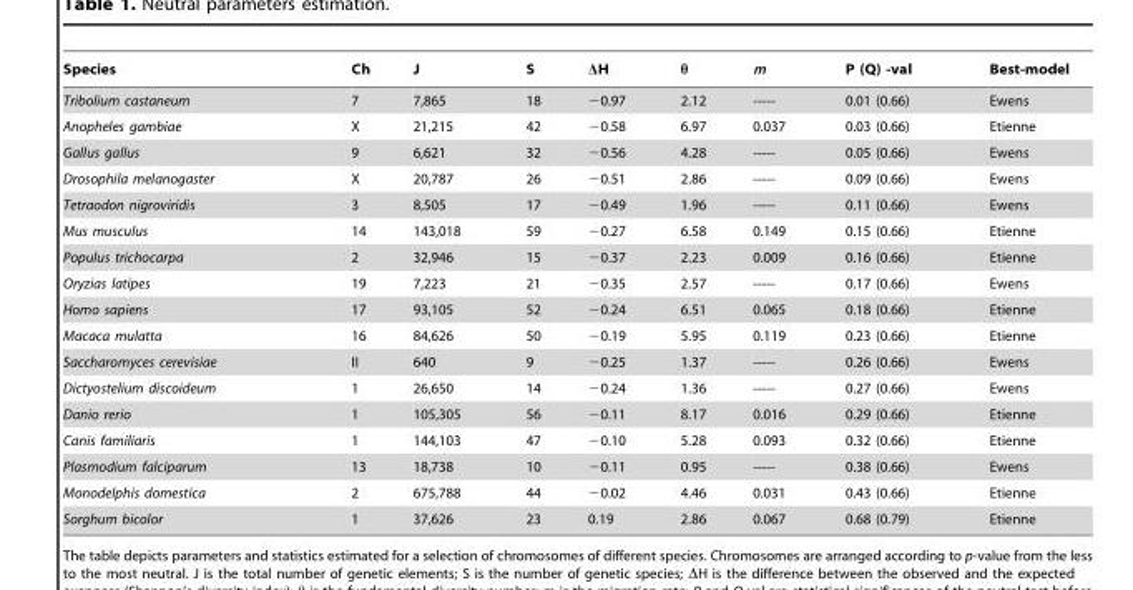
<table><thead><tr><td>Species</td><td>Ch</td><td>J</td><td>S</td><td>ΔH</td><td>θ</td><td>m</td><td>P (Q) -val</td><td>Best-model</td></tr></thead><tbody><tr><td>Tribolium castaneum</td><td>7</td><td>7,865</td><td>18</td><td>−0.97</td><td>2.12</td><td>-----</td><td>0.01 (0.66)</td><td>Ewens</td></tr><tr><td>Anopheles gambiae</td><td>X</td><td>21,215</td><td>42</td><td>−0.58</td><td>6.97</td><td>0.037</td><td>0.03 (0.66)</td><td>Etienne</td></tr><tr><td>Gallus gallus</td><td>9</td><td>6,621</td><td>32</td><td>−0.56</td><td>4.28</td><td>-----</td><td>0.05 (0.66)</td><td>Ewens</td></tr><tr><td>Drosophila melanogaster</td><td>X</td><td>20,787</td><td>26</td><td>−0.51</td><td>2.86</td><td>-----</td><td>0.09 (0.66)</td><td>Ewens</td></tr><tr><td>Tetraodon nigroviridis</td><td>3</td><td>8,505</td><td>17</td><td>−0.49</td><td>1.96</td><td>-----</td><td>0.11 (0.66)</td><td>Ewens</td></tr><tr><td>Mus musculus</td><td>14</td><td>143,018</td><td>59</td><td>−0.27</td><td>6.58</td><td>0.149</td><td>0.15 (0.66)</td><td>Etienne</td></tr><tr><td>Populus trichocarpa</td><td>2</td><td>32,946</td><td>15</td><td>−0.37</td><td>2.23</td><td>0.009</td><td>0.16 (0.66)</td><td>Etienne</td></tr><tr><td>Oryzias latipes</td><td>19</td><td>7,223</td><td>21</td><td>−0.35</td><td>2.57</td><td>-----</td><td>0.17 (0.66)</td><td>Ewens</td></tr><tr><td>Homo sapiens</td><td>17</td><td>93,105</td><td>52</td><td>−0.24</td><td>6.51</td><td>0.065</td><td>0.18 (0.66)</td><td>Etienne</td></tr><tr><td>Macaca mulatta</td><td>16</td><td>84,626</td><td>50</td><td>−0.19</td><td>5.95</td><td>0.119</td><td>0.23 (0.66)</td><td>Etienne</td></tr><tr><td>Saccharomyces cerevisiae</td><td>II</td><td>640</td><td>9</td><td>−0.25</td><td>1.37</td><td>-----</td><td>0.26 (0.66)</td><td>Ewens</td></tr><tr><td>Dictyostelium discoideum</td><td>1</td><td>26,650</td><td>14</td><td>−0.24</td><td>1.36</td><td>-----</td><td>0.27 (0.66)</td><td>Ewens</td></tr><tr><td>Danio rerio</td><td>1</td><td>105,305</td><td>56</td><td>−0.11</td><td>8.17</td><td>0.016</td><td>0.29 (0.66)</td><td>Etienne</td></tr><tr><td>Canis familiaris</td><td>1</td><td>144,103</td><td>47</td><td>−0.10</td><td>5.28</td><td>0.093</td><td>0.32 (0.66)</td><td>Etienne</td></tr><tr><td>Plasmodium falciparum</td><td>13</td><td>18,738</td><td>10</td><td>−0.11</td><td>0.95</td><td>-----</td><td>0.38 (0.66)</td><td>Ewens</td></tr><tr><td>Monodelphis domestica</td><td>2</td><td>675,788</td><td>44</td><td>−0.02</td><td>4.46</td><td>0.031</td><td>0.43 (0.66)</td><td>Etienne</td></tr><tr><td>Sorghum bicolor</td><td>1</td><td>37,626</td><td>23</td><td>0.19</td><td>2.86</td><td>0.067</td><td>0.68 (0.79)</td><td>Etienne</td></tr></tbody></table>